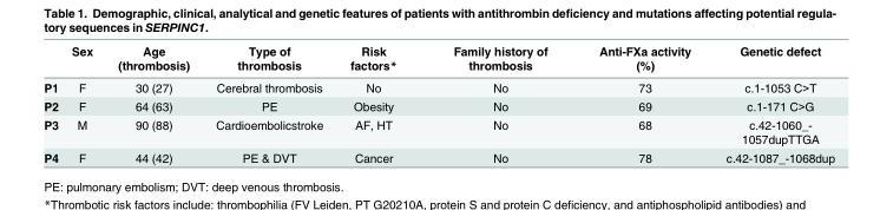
<table><thead><tr><td></td><td>Sex</td><td>Age (thrombosis)</td><td>Type of thrombosis</td><td>Risk factors*</td><td>Family history of thrombosis</td><td>Anti-FXa activity (%)</td><td>Genetic defect</td></tr></thead><tbody><tr><td>P1</td><td>F</td><td>30 (27)</td><td>Cerebral thrombosis</td><td>No</td><td>No</td><td>73</td><td>c.1-1053 C&gt;T</td></tr><tr><td>P2</td><td>F</td><td>64 (63)</td><td>PE</td><td>Obesity</td><td>No</td><td>69</td><td>c.1-171 C&gt;G</td></tr><tr><td>P3</td><td>M</td><td>90 (88)</td><td>Cardioembolicstroke</td><td>AF, HT</td><td>No</td><td>68</td><td>c.42-1060_- 1057dupTTGA</td></tr><tr><td>P4</td><td>F</td><td>44 (42)</td><td>PE &amp; DVT</td><td>Cancer</td><td>No</td><td>78</td><td>c.42-1087_-1068dup</td></tr></tbody></table>